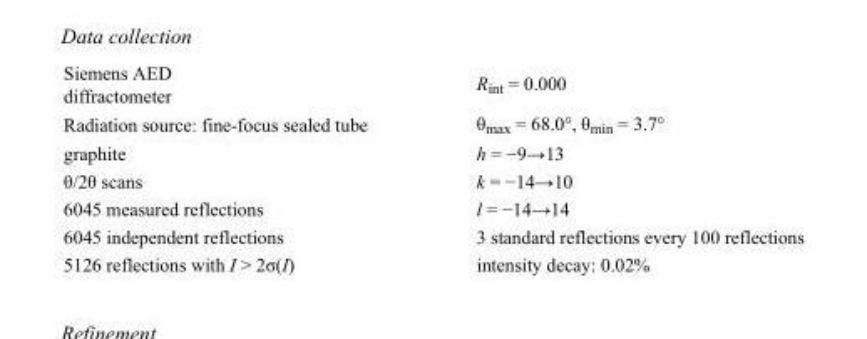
<table><tbody><tr><td>Siemens AED diffractometer</td><td>Rint = 0.000</td></tr><tr><td>Radiation source: fine-focus sealed tube</td><td>θ<sub>max</sub> = 68.0°, θ<sub>min</sub> = 3.7°</td></tr><tr><td>graphite</td><td>h = −9→13</td></tr><tr><td>θ/2θ scans</td><td>k = −14→10</td></tr><tr><td>6045 measured reflections</td><td>l = −14→14</td></tr><tr><td>6045 independent reflections</td><td>3 standard reflections every 100 reflections</td></tr><tr><td>5126 reflections with I &gt; 2σ(I)</td><td>intensity decay: 0.02%</td></tr></tbody></table>